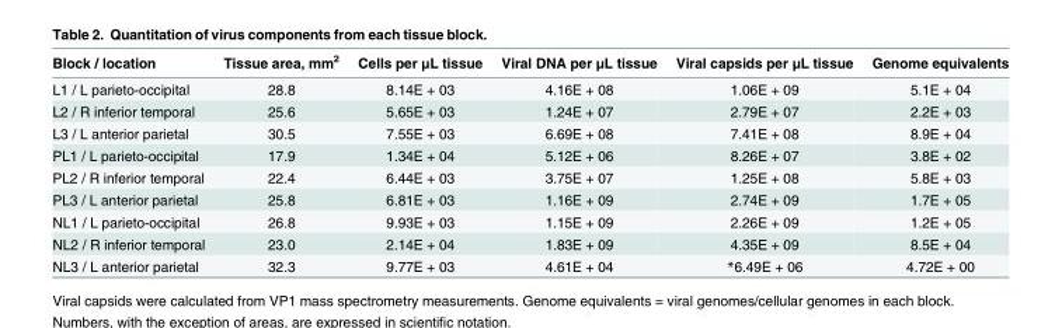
<table><thead><tr><td>Block / location</td><td>Tissue area, mm<sup>2</sup></td><td>Cells per μL tissue</td><td>Viral DNA per μL tissue</td><td>Viral capsids per μL tissue</td><td>Genome equivalents</td></tr></thead><tbody><tr><td>L1 / L parieto-occipital</td><td>28.8</td><td>8.14E + 03</td><td>4.16E + 08</td><td>1.06E + 09</td><td>5.1E + 04</td></tr><tr><td>L2 / R inferior temporal</td><td>25.6</td><td>5.65E + 03</td><td>1.24E + 07</td><td>2.79E + 07</td><td>2.2E + 03</td></tr><tr><td>L3 / L anterior parietal</td><td>30.5</td><td>7.55E + 03</td><td>6.69E + 08</td><td>7.41E + 08</td><td>8.9E + 04</td></tr><tr><td>PL1 / L parieto-occipital</td><td>17.9</td><td>1.34E + 04</td><td>5.12E + 06</td><td>8.26E + 07</td><td>3.8E + 02</td></tr><tr><td>PL2 / R inferior temporal</td><td>22.4</td><td>6.44E + 03</td><td>3.75E + 07</td><td>1.25E + 08</td><td>5.8E + 03</td></tr><tr><td>PL3 / L anterior parietal</td><td>25.8</td><td>6.81E + 03</td><td>1.16E + 09</td><td>2.74E + 09</td><td>1.7E + 05</td></tr><tr><td>NL1 / L parieto-occipital</td><td>26.8</td><td>9.93E + 03</td><td>1.15E + 09</td><td>2.26E + 09</td><td>1.2E + 05</td></tr><tr><td>NL2 / R inferior temporal</td><td>23.0</td><td>2.14E + 04</td><td>1.83E + 09</td><td>4.35E + 09</td><td>8.5E + 04</td></tr><tr><td>NL3 / L anterior parietal</td><td>32.3</td><td>9.77E + 03</td><td>4.61E + 04</td><td>*6.49E + 06</td><td>4.72E + 00</td></tr></tbody></table>